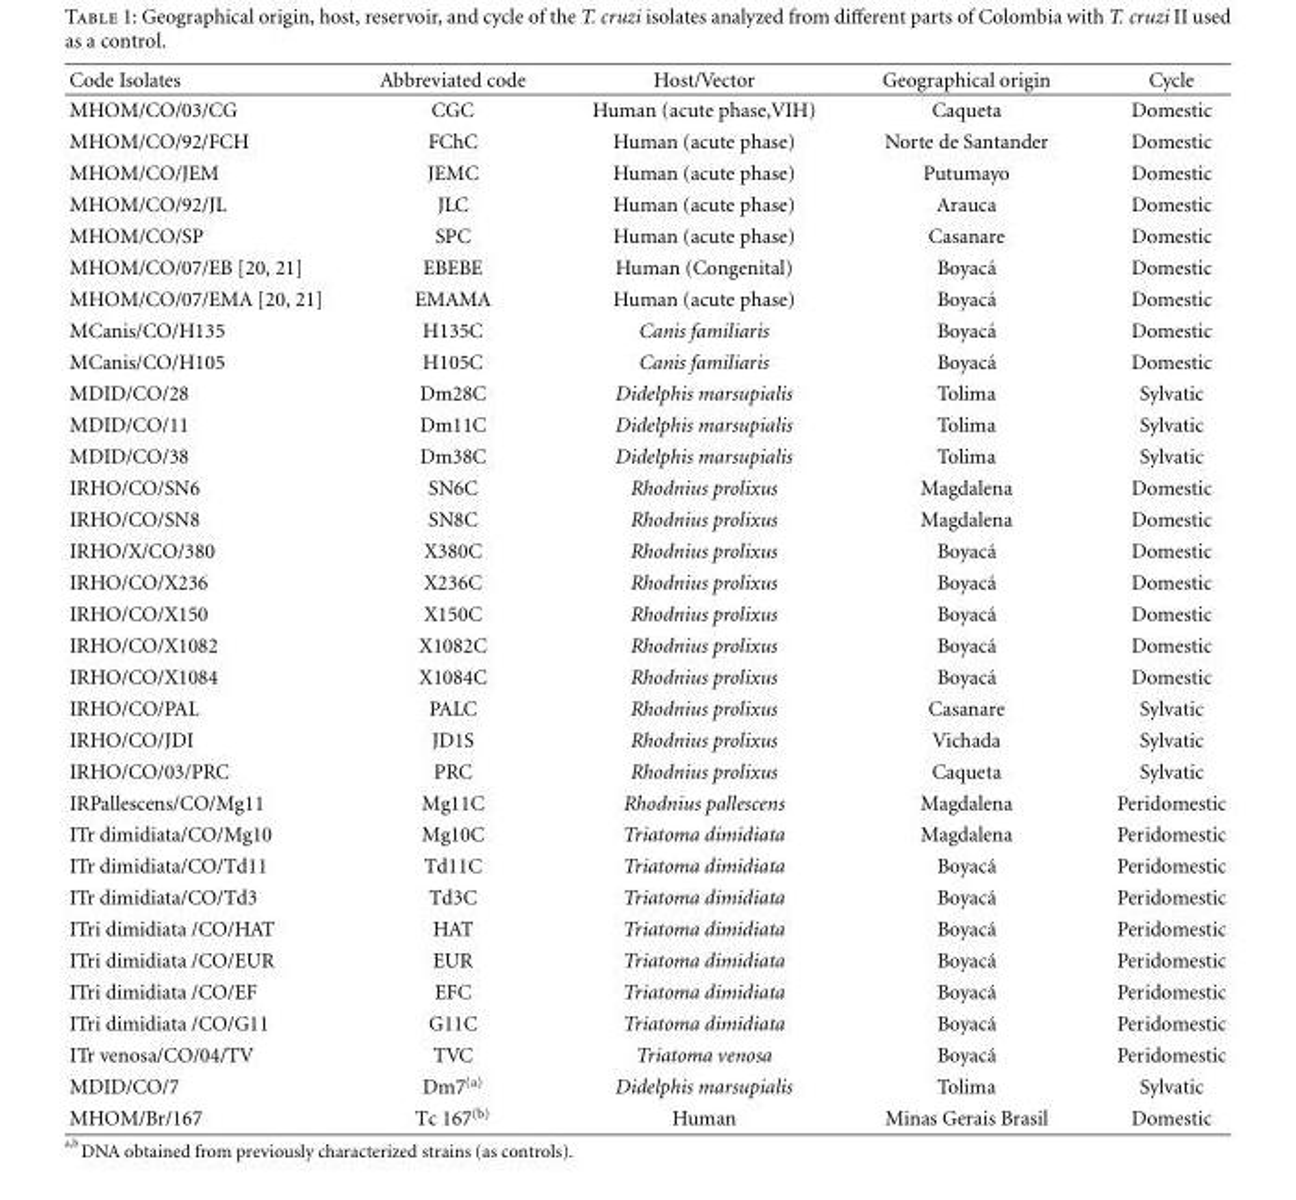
<table><thead><tr><td>Code Isolates</td><td>Abbreviated code</td><td>Host/Vector</td><td>Geographical origin</td><td>Cycle</td></tr></thead><tbody><tr><td>MHOM/CO/03/CG</td><td>CGC</td><td>Human (acute phase,VIH)</td><td>Caqueta</td><td>Domestic</td></tr><tr><td>MHOM/CO/92/FCH</td><td>FChC</td><td>Human (acute phase)</td><td>Norte de Santander</td><td>Domestic</td></tr><tr><td>MHOM/CO/JEM</td><td>JEMC</td><td>Human (acute phase)</td><td>Putumayo</td><td>Domestic</td></tr><tr><td>MHOM/CO/92/JL</td><td>JLC</td><td>Human (acute phase)</td><td>Arauca</td><td>Domestic</td></tr><tr><td>MHOM/CO/SP</td><td>SPC</td><td>Human (acute phase)</td><td>Casanare</td><td>Domestic</td></tr><tr><td>MHOM/CO/07/EB [20, 21]</td><td>EBEBE</td><td>Human (Congenital)</td><td>Boyac´a</td><td>Domestic</td></tr><tr><td>MHOM/CO/07/EMA [20, 21]</td><td>EMAMA</td><td>Human (acute phase)</td><td>Boyac´a</td><td>Domestic</td></tr><tr><td>MCanis/CO/H135</td><td>H135C</td><td>Canis familiaris</td><td>Boyac´a</td><td>Domestic</td></tr><tr><td>MCanis/CO/H105</td><td>H105C</td><td>Canis familiaris</td><td>Boyac´a</td><td>Domestic</td></tr><tr><td>MDID/CO/28</td><td>Dm28C</td><td>Didelphis marsupialis</td><td>Tolima</td><td>Sylvatic</td></tr><tr><td>MDID/CO/11</td><td>Dm11C</td><td>Didelphis marsupialis</td><td>Tolima</td><td>Sylvatic</td></tr><tr><td>MDID/CO/38</td><td>Dm38C</td><td>Didelphis marsupialis</td><td>Tolima</td><td>Sylvatic</td></tr><tr><td>IRHO/CO/SN6</td><td>SN6C</td><td>Rhodnius prolixus</td><td>Magdalena</td><td>Domestic</td></tr><tr><td>IRHO/CO/SN8</td><td>SN8C</td><td>Rhodnius prolixus</td><td>Magdalena</td><td>Domestic</td></tr><tr><td>IRHO/X/CO/380</td><td>X380C</td><td>Rhodnius prolixus</td><td>Boyac´a</td><td>Domestic</td></tr><tr><td>IRHO/CO/X236</td><td>X236C</td><td>Rhodnius prolixus</td><td>Boyac´a</td><td>Domestic</td></tr><tr><td>IRHO/CO/X150</td><td>X150C</td><td>Rhodnius prolixus</td><td>Boyac´a</td><td>Domestic</td></tr><tr><td>IRHO/CO/X1082</td><td>X1082C</td><td>Rhodnius prolixus</td><td>Boyac´a</td><td>Domestic</td></tr><tr><td>IRHO/CO/X1084</td><td>X1084C</td><td>Rhodnius prolixus</td><td>Boyac´a</td><td>Domestic</td></tr><tr><td>IRHO/CO/PAL</td><td>PALC</td><td>Rhodnius prolixus</td><td>Casanare</td><td>Sylvatic</td></tr><tr><td>IRHO/CO/JDI</td><td>JD1S</td><td>Rhodnius prolixus</td><td>Vichada</td><td>Sylvatic</td></tr><tr><td>IRHO/CO/03/PRC</td><td>PRC</td><td>Rhodnius prolixus</td><td>Caqueta</td><td>Sylvatic</td></tr><tr><td>IRPallescens/CO/Mg11</td><td>Mg11C</td><td>Rhodnius pallescens</td><td>Magdalena</td><td>Peridomestic</td></tr><tr><td>ITr dimidiata/CO/Mg10</td><td>Mg10C</td><td>Triatoma dimidiata</td><td>Magdalena</td><td>Peridomestic</td></tr><tr><td>ITr dimidiata/CO/Td11</td><td>Td11C</td><td>Triatoma dimidiata</td><td>Boyac´a</td><td>Peridomestic</td></tr><tr><td>ITr dimidiata/CO/Td3</td><td>Td3C</td><td>Triatoma dimidiata</td><td>Boyac´a</td><td>Peridomestic</td></tr><tr><td>ITri dimidiata /CO/HAT</td><td>HAT</td><td>Triatoma dimidiata</td><td>Boyac´a</td><td>Peridomestic</td></tr><tr><td>ITri dimidiata /CO/EUR</td><td>EUR</td><td>Triatoma dimidiata</td><td>Boyac´a</td><td>Peridomestic</td></tr><tr><td>ITri dimidiata /CO/EF</td><td>EFC</td><td>Triatoma dimidiata</td><td>Boyac´a</td><td>Peridomestic</td></tr><tr><td>ITri dimidiata /CO/G11</td><td>G11C</td><td>Triatoma dimidiata</td><td>Boyac´a</td><td>Peridomestic</td></tr><tr><td>ITr venosa/CO/04/TV</td><td>TVC</td><td>Triatoma venosa</td><td>Boyac´a</td><td>Peridomestic</td></tr><tr><td>MDID/CO/7</td><td>Dm7<sup>(a)</sup></td><td>Didelphis marsupialis</td><td>Tolima</td><td>Sylvatic</td></tr><tr><td>MHOM/Br/167</td><td>Tc 167<sup>(b)</sup></td><td>Human</td><td>Minas Gerais Brasil</td><td>Domestic</td></tr></tbody></table>